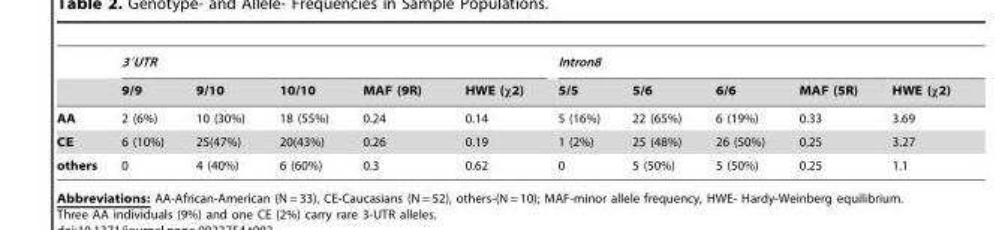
<table><thead><tr><td rowspan="2"></td><td colspan="5">3′UTR</td><td colspan="5">Intron8</td></tr><tr><td>9/9</td><td>9/10</td><td>10/10</td><td>MAF (9R)</td><td>HWE (χ2)</td><td>5/5</td><td>5/6</td><td>6/6</td><td>MAF (5R)</td><td>HWE (χ2)</td></tr></thead><tbody><tr><td>AA</td><td>2 (6%)</td><td>10 (30%)</td><td>18 (55%)</td><td>0.24</td><td>0.14</td><td>5 (16%)</td><td>22 (65%)</td><td>6 (19%)</td><td>0.33</td><td>3.69</td></tr><tr><td>CE</td><td>6 (10%)</td><td>25(47%)</td><td>20(43%)</td><td>0.26</td><td>0.19</td><td>1 (2%)</td><td>25 (48%)</td><td>26 (50%)</td><td>0.25</td><td>3.27</td></tr><tr><td>others</td><td>0</td><td>4 (40%)</td><td>6 (60%)</td><td>0.3</td><td>0.62</td><td>0</td><td>5 (50%)</td><td>5 (50%)</td><td>0.25</td><td>1.1</td></tr></tbody></table>